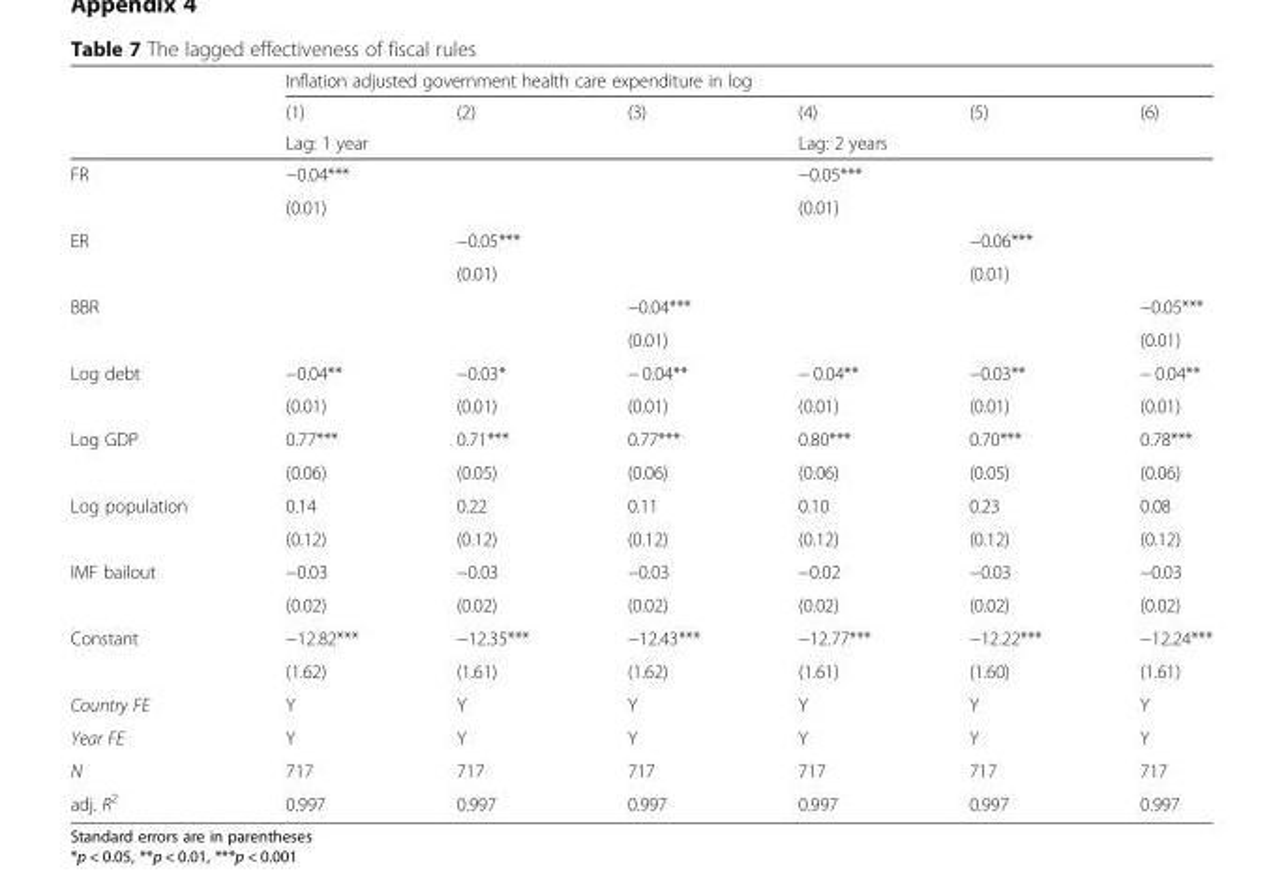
<table><thead><tr><td rowspan="3"></td><td colspan="6">Inflation adjusted government health care expenditure in log</td></tr><tr><td>(1)</td><td>(2)</td><td>(3)</td><td>(4)</td><td>(5)</td><td>(6)</td></tr><tr><td colspan="3">Lag: 1 year</td><td colspan="3">Lag: 2 years</td></tr></thead><tbody><tr><td rowspan="2">FR</td><td>−0.04***</td><td></td><td></td><td>−0.05***</td><td></td><td></td></tr><tr><td>(0.01)</td><td></td><td></td><td>(0.01)</td><td></td><td></td></tr><tr><td rowspan="2">ER</td><td></td><td>−0.05***</td><td></td><td></td><td>−0.06***</td><td></td></tr><tr><td></td><td>(0.01)</td><td></td><td></td><td>(0.01)</td><td></td></tr><tr><td rowspan="2">BBR</td><td></td><td></td><td>−0.04***</td><td></td><td></td><td>−0.05***</td></tr><tr><td></td><td></td><td>(0.01)</td><td></td><td></td><td>(0.01)</td></tr><tr><td rowspan="2">Log debt</td><td>−0.04**</td><td>−0.03*</td><td>− 0.04**</td><td>− 0.04**</td><td>−0.03**</td><td>− 0.04**</td></tr><tr><td>(0.01)</td><td>(0.01)</td><td>(0.01)</td><td>(0.01)</td><td>(0.01)</td><td>(0.01)</td></tr><tr><td rowspan="2">Log GDP</td><td>0.77***</td><td>0.71***</td><td>0.77***</td><td>0.80***</td><td>0.70***</td><td>0.78***</td></tr><tr><td>(0.06)</td><td>(0.05)</td><td>(0.06)</td><td>(0.06)</td><td>(0.05)</td><td>(0.06)</td></tr><tr><td rowspan="2">Log population</td><td>0.14</td><td>0.22</td><td>0.11</td><td>0.10</td><td>0.23</td><td>0.08</td></tr><tr><td>(0.12)</td><td>(0.12)</td><td>(0.12)</td><td>(0.12)</td><td>(0.12)</td><td>(0.12)</td></tr><tr><td rowspan="2">IMF bailout</td><td>−0.03</td><td>−0.03</td><td>−0.03</td><td>−0.02</td><td>−0.03</td><td>−0.03</td></tr><tr><td>(0.02)</td><td>(0.02)</td><td>(0.02)</td><td>(0.02)</td><td>(0.02)</td><td>(0.02)</td></tr><tr><td rowspan="2">Constant</td><td>−12.82***</td><td>−12.35***</td><td>−12.43***</td><td>−12.77***</td><td>−12.22***</td><td>−12.24***</td></tr><tr><td>(1.62)</td><td>(1.61)</td><td>(1.62)</td><td>(1.61)</td><td>(1.60)</td><td>(1.61)</td></tr><tr><td>Country FE</td><td>Y</td><td>Y</td><td>Y</td><td>Y</td><td>Y</td><td>Y</td></tr><tr><td>Year FE</td><td>Y</td><td>Y</td><td>Y</td><td>Y</td><td>Y</td><td>Y</td></tr><tr><td>N</td><td>717</td><td>717</td><td>717</td><td>717</td><td>717</td><td>717</td></tr><tr><td>adj. R<sup>2</sup></td><td>0.997</td><td>0.997</td><td>0.997</td><td>0.997</td><td>0.997</td><td>0.997</td></tr></tbody></table>